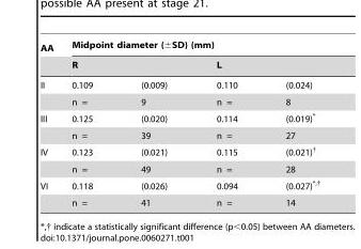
<table><thead><tr><td rowspan="3">AA II</td><td colspan="4">Midpoint diameter (±SD) (mm)</td></tr><tr><td colspan="2">R</td><td colspan="2">L</td></tr><tr><td>0.109</td><td>(0.009)</td><td>0.110</td><td>(0.024)</td></tr></thead><tbody><tr><td></td><td>n =</td><td>9</td><td>n =</td><td>8</td></tr><tr><td rowspan="2">III</td><td>0.125</td><td>(0.020)</td><td>0.114</td><td>(0.019)*</td></tr><tr><td>n =</td><td>39</td><td>n =</td><td>27</td></tr><tr><td rowspan="2">IV</td><td>0.123</td><td>(0.021)</td><td>0.115</td><td>(0.021)<sup>†</sup></td></tr><tr><td>n =</td><td>49</td><td>n =</td><td>28</td></tr><tr><td rowspan="2">VI</td><td>0.118</td><td>(0.026)</td><td>0.094</td><td>(0.027)*,†</td></tr><tr><td>n =</td><td>41</td><td>n =</td><td>14</td></tr></tbody></table>